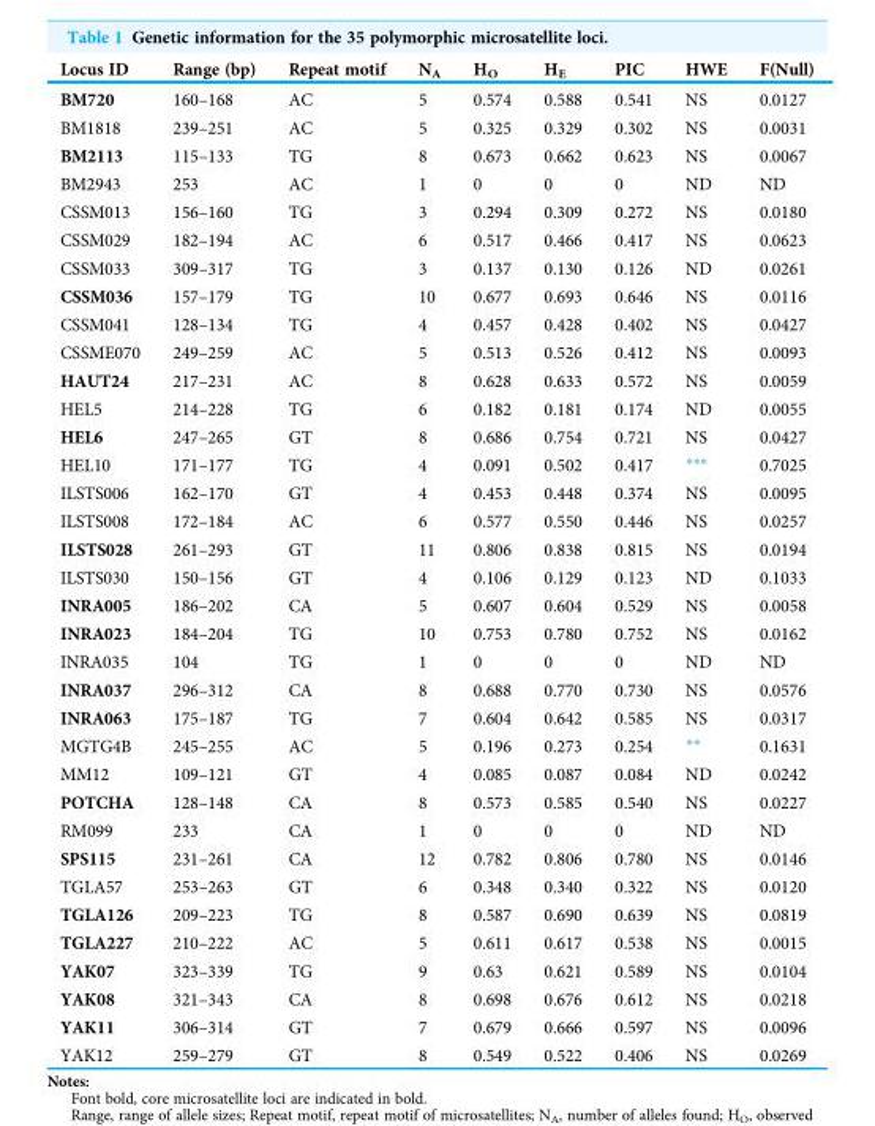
<table><thead><tr><td>Locus ID</td><td>Range (bp)</td><td>Repeat motif</td><td>N<sub>A</sub></td><td>H<sub>O</sub></td><td>H<sub>E</sub></td><td>PIC</td><td>HWE</td><td>F(Null)</td></tr></thead><tbody><tr><td>BM720</td><td>160–168</td><td>AC</td><td>5</td><td>0.574</td><td>0.588</td><td>0.541</td><td>NS</td><td>0.0127</td></tr><tr><td>BM1818</td><td>239–251</td><td>AC</td><td>5</td><td>0.325</td><td>0.329</td><td>0.302</td><td>NS</td><td>0.0031</td></tr><tr><td>BM2113</td><td>115–133</td><td>TG</td><td>8</td><td>0.673</td><td>0.662</td><td>0.623</td><td>NS</td><td>0.0067</td></tr><tr><td>BM2943</td><td>253</td><td>AC</td><td>1</td><td>0</td><td>0</td><td>0</td><td>ND</td><td>ND</td></tr><tr><td>CSSM013</td><td>156–160</td><td>TG</td><td>3</td><td>0.294</td><td>0.309</td><td>0.272</td><td>NS</td><td>0.0180</td></tr><tr><td>CSSM029</td><td>182–194</td><td>AC</td><td>6</td><td>0.517</td><td>0.466</td><td>0.417</td><td>NS</td><td>0.0623</td></tr><tr><td>CSSM033</td><td>309–317</td><td>TG</td><td>3</td><td>0.137</td><td>0.130</td><td>0.126</td><td>ND</td><td>0.0261</td></tr><tr><td>CSSM036</td><td>157–179</td><td>TG</td><td>10</td><td>0.677</td><td>0.693</td><td>0.646</td><td>NS</td><td>0.0116</td></tr><tr><td>CSSM041</td><td>128–134</td><td>TG</td><td>4</td><td>0.457</td><td>0.428</td><td>0.402</td><td>NS</td><td>0.0427</td></tr><tr><td>CSSME070</td><td>249–259</td><td>AC</td><td>5</td><td>0.513</td><td>0.526</td><td>0.412</td><td>NS</td><td>0.0093</td></tr><tr><td>HAUT24</td><td>217–231</td><td>AC</td><td>8</td><td>0.628</td><td>0.633</td><td>0.572</td><td>NS</td><td>0.0059</td></tr><tr><td>HEL5</td><td>214–228</td><td>TG</td><td>6</td><td>0.182</td><td>0.181</td><td>0.174</td><td>ND</td><td>0.0055</td></tr><tr><td>HEL6</td><td>247–265</td><td>GT</td><td>8</td><td>0.686</td><td>0.754</td><td>0.721</td><td>NS</td><td>0.0427</td></tr><tr><td>HEL10</td><td>171–177</td><td>TG</td><td>4</td><td>0.091</td><td>0.502</td><td>0.417</td><td>***</td><td>0.7025</td></tr><tr><td>ILSTS006</td><td>162–170</td><td>GT</td><td>4</td><td>0.453</td><td>0.448</td><td>0.374</td><td>NS</td><td>0.0095</td></tr><tr><td>ILSTS008</td><td>172–184</td><td>AC</td><td>6</td><td>0.577</td><td>0.550</td><td>0.446</td><td>NS</td><td>0.0257</td></tr><tr><td>ILSTS028</td><td>261–293</td><td>GT</td><td>11</td><td>0.806</td><td>0.838</td><td>0.815</td><td>NS</td><td>0.0194</td></tr><tr><td>ILSTS030</td><td>150–156</td><td>GT</td><td>4</td><td>0.106</td><td>0.129</td><td>0.123</td><td>ND</td><td>0.1033</td></tr><tr><td>INRA005</td><td>186–202</td><td>CA</td><td>5</td><td>0.607</td><td>0.604</td><td>0.529</td><td>NS</td><td>0.0058</td></tr><tr><td>INRA023</td><td>184–204</td><td>TG</td><td>10</td><td>0.753</td><td>0.780</td><td>0.752</td><td>NS</td><td>0.0162</td></tr><tr><td>INRA035</td><td>104</td><td>TG</td><td>1</td><td>0</td><td>0</td><td>0</td><td>ND</td><td>ND</td></tr><tr><td>INRA037</td><td>296–312</td><td>CA</td><td>8</td><td>0.688</td><td>0.770</td><td>0.730</td><td>NS</td><td>0.0576</td></tr><tr><td>INRA063</td><td>175–187</td><td>TG</td><td>7</td><td>0.604</td><td>0.642</td><td>0.585</td><td>NS</td><td>0.0317</td></tr><tr><td>MGTG4B</td><td>245–255</td><td>AC</td><td>5</td><td>0.196</td><td>0.273</td><td>0.254</td><td>**</td><td>0.1631</td></tr><tr><td>MM12</td><td>109–121</td><td>GT</td><td>4</td><td>0.085</td><td>0.087</td><td>0.084</td><td>ND</td><td>0.0242</td></tr><tr><td>POTCHA</td><td>128–148</td><td>CA</td><td>8</td><td>0.573</td><td>0.585</td><td>0.540</td><td>NS</td><td>0.0227</td></tr><tr><td>RM099</td><td>233</td><td>CA</td><td>1</td><td>0</td><td>0</td><td>0</td><td>ND</td><td>ND</td></tr><tr><td>SPS115</td><td>231–261</td><td>CA</td><td>12</td><td>0.782</td><td>0.806</td><td>0.780</td><td>NS</td><td>0.0146</td></tr><tr><td>TGLA57</td><td>253–263</td><td>GT</td><td>6</td><td>0.348</td><td>0.340</td><td>0.322</td><td>NS</td><td>0.0120</td></tr><tr><td>TGLA126</td><td>209–223</td><td>TG</td><td>8</td><td>0.587</td><td>0.690</td><td>0.639</td><td>NS</td><td>0.0819</td></tr><tr><td>TGLA227</td><td>210–222</td><td>AC</td><td>5</td><td>0.611</td><td>0.617</td><td>0.538</td><td>NS</td><td>0.0015</td></tr><tr><td>YAK07</td><td>323–339</td><td>TG</td><td>9</td><td>0.63</td><td>0.621</td><td>0.589</td><td>NS</td><td>0.0104</td></tr><tr><td>YAK08</td><td>321–343</td><td>CA</td><td>8</td><td>0.698</td><td>0.676</td><td>0.612</td><td>NS</td><td>0.0218</td></tr><tr><td>YAK11</td><td>306–314</td><td>GT</td><td>7</td><td>0.679</td><td>0.666</td><td>0.597</td><td>NS</td><td>0.0096</td></tr><tr><td>YAK12</td><td>259–279</td><td>GT</td><td>8</td><td>0.549</td><td>0.522</td><td>0.406</td><td>NS</td><td>0.0269</td></tr></tbody></table>